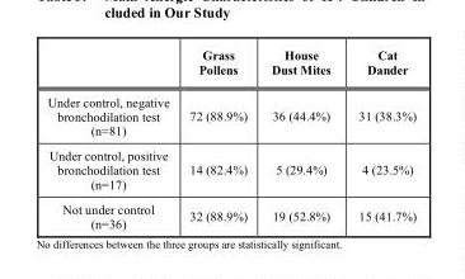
<table><thead><tr><td></td><td>Grass Pollens</td><td>House Dust Mites</td><td>Cat Dander</td></tr></thead><tbody><tr><td>Under control, negative bronchodilation test (n=81)</td><td>72 (88.9%)</td><td>36 (44.4%)</td><td>31 (38.3%)</td></tr><tr><td>Under control, positive bronchodilation test (n=17)</td><td>14 (82.4%)</td><td>5 (29.4%)</td><td>4 (23.5%)</td></tr><tr><td>Not under control (n=36)</td><td>32 (88.9%)</td><td>19 (52.8%)</td><td>15 (41.7%)</td></tr></tbody></table>